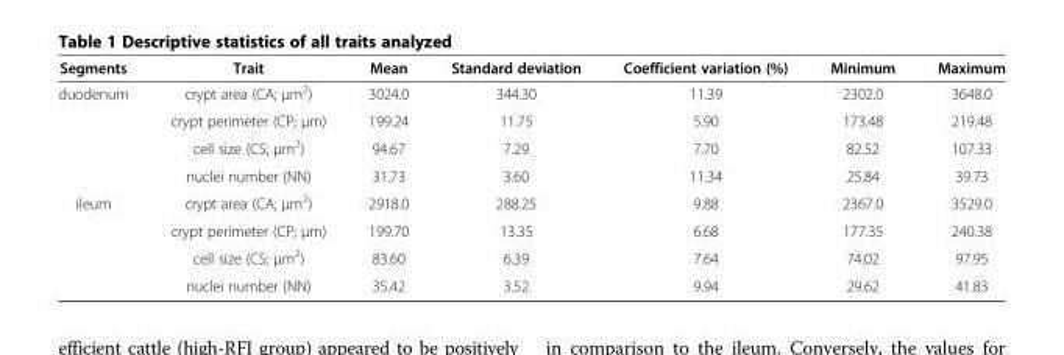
<table><thead><tr><td>Segments</td><td>Trait</td><td>Mean</td><td>Standard deviation</td><td>Coefficient variation (%)</td><td>Minimum</td><td>Maximum</td></tr></thead><tbody><tr><td rowspan="4">duodenum</td><td>crypt area (CA; μm<sup>2</sup>)</td><td>3024.0</td><td>344.30</td><td>11.39</td><td>2302.0</td><td>3648.0</td></tr><tr><td>crypt perimeter (CP; μm)</td><td>199.24</td><td>11.75</td><td>5.90</td><td>173.48</td><td>219.48</td></tr><tr><td>cell size (CS; μm<sup>2</sup>)</td><td>94.67</td><td>7.29</td><td>7.70</td><td>82.52</td><td>107.33</td></tr><tr><td>nuclei number (NN)</td><td>31.73</td><td>3.60</td><td>11.34</td><td>25.84</td><td>39.73</td></tr><tr><td rowspan="4">ileum</td><td>crypt area (CA; μm<sup>2</sup>)</td><td>2918.0</td><td>288.25</td><td>9.88</td><td>2367.0</td><td>3529.0</td></tr><tr><td>crypt perimeter (CP; μm)</td><td>199.70</td><td>13.35</td><td>6.68</td><td>177.35</td><td>240.38</td></tr><tr><td>cell size (CS; μm<sup>2</sup>)</td><td>83.60</td><td>6.39</td><td>7.64</td><td>74.02</td><td>97.95</td></tr><tr><td>nuclei number (NN)</td><td>35.42</td><td>3.52</td><td>9.94</td><td>29.62</td><td>41.83</td></tr></tbody></table>